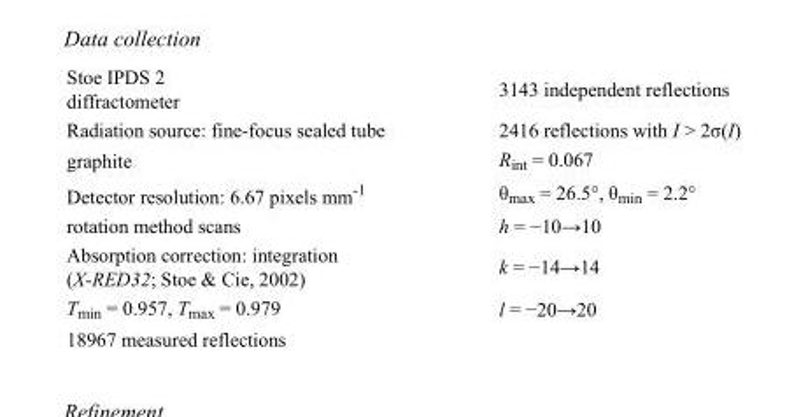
<table><tbody><tr><td>Stoe IPDS 2 diffractometer</td><td>3143 independent reflections</td></tr><tr><td>Radiation source: fine-focus sealed tube</td><td>2416 reflections with I &gt; 2σ(I)</td></tr><tr><td>graphite</td><td>R<sub>int</sub> = 0.067</td></tr><tr><td>Detector resolution: 6.67 pixels mm<sup>-1</sup></td><td>θ<sub>max</sub> = 26.5°, θ<sub>min</sub> = 2.2°</td></tr><tr><td>rotation method scans</td><td>h = −10→10</td></tr><tr><td>Absorption correction: integration (X-RED32; Stoe &amp; Cie, 2002)</td><td>k = −14→14</td></tr><tr><td>T<sub>min</sub> = 0.957, T<sub>max</sub> = 0.979</td><td>l = −20→20</td></tr><tr><td>18967 measured reflections</td><td></td></tr></tbody></table>